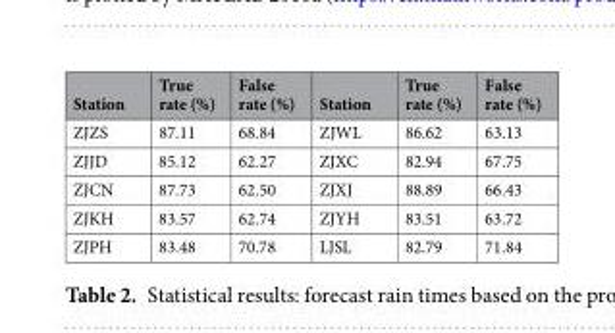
<table><thead><tr><td>Station</td><td>True rate (%)</td><td>False rate (%)</td><td>Station</td><td>True rate (%)</td><td>False rate (%)</td></tr></thead><tbody><tr><td>ZJZS</td><td>87.11</td><td>68.84</td><td>ZJWL</td><td>86.62</td><td>63.13</td></tr><tr><td>ZJJD</td><td>85.12</td><td>62.27</td><td>ZJXC</td><td>82.94</td><td>67.75</td></tr><tr><td>ZJCN</td><td>87.73</td><td>62.50</td><td>ZJXJ</td><td>88.89</td><td>66.43</td></tr><tr><td>ZJKH</td><td>83.57</td><td>62.74</td><td>ZJYH</td><td>83.51</td><td>63.72</td></tr><tr><td>ZJPH</td><td>83.48</td><td>70.78</td><td>LJSL</td><td>82.79</td><td>71.84</td></tr></tbody></table>